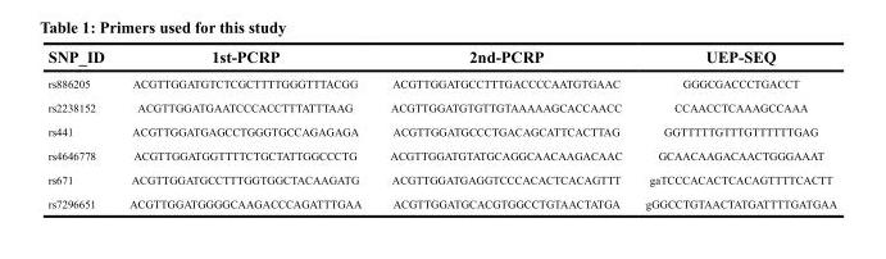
<table><thead><tr><td>SNP_ID</td><td>1st-PCRP</td><td>2nd-PCRP</td><td>UEP-SEQ</td></tr></thead><tbody><tr><td>rs886205</td><td>ACGTTGGATGTCTCGCTTTTGGGTTTACGG</td><td>ACGTTGGATGCCTTTGACCCCAATGTGAAC</td><td>GGGCGACCCTGACCT</td></tr><tr><td>rs2238152</td><td>ACGTTGGATGAATCCCACCTTTATTTAAG</td><td>ACGTTGGATGTGTTGTAAAAAGCACCAACC</td><td>CCAACCTCAAAGCCAAA</td></tr><tr><td>rs441</td><td>ACGTTGGATGAGCCTGGGTGCCAGAGAGA</td><td>ACGTTGGATGCCCTGACAGCATTCACTTAG</td><td>GGTTTTTGTTTGTTTTTTGAG</td></tr><tr><td>rs4646778</td><td>ACGTTGGATGGTTTTCTGCTATTGGCCCTG</td><td>ACGTTGGATGTATGCAGGCAACAAGACAAC</td><td>GCAACAAGACAACTGGGAAAT</td></tr><tr><td>rs671</td><td>ACGTTGGATGCCTTTGGTGGCTACAAGATG</td><td>ACGTTGGATGAGGTCCCACACTCACAGTTT</td><td>gaTCCCACACTCACAGTTTTCACTT</td></tr><tr><td>rs7296651</td><td>ACGTTGGATGGGGCAAGACCCAGATTTGAA</td><td>ACGTTGGATGCACGTGGCCTGTAACTATGA</td><td>gGGCCTGTAACTATGATTTTGATGAA</td></tr></tbody></table>